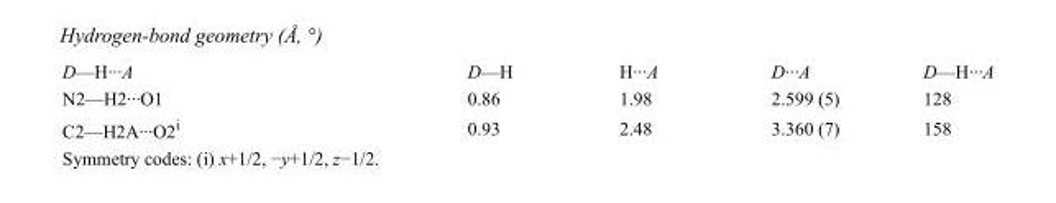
<table><tbody><tr><td>D—H···A</td><td>D—H</td><td>H···A</td><td>D···A</td><td>D—H···A</td></tr><tr><td>N2—H2···O1</td><td>0.86</td><td>1.98</td><td>2.599 (5)</td><td>128</td></tr><tr><td>C2—H2A···O2<sup>i</sup></td><td>0.93</td><td>2.48</td><td>3.360 (7)</td><td>158</td></tr></tbody></table>